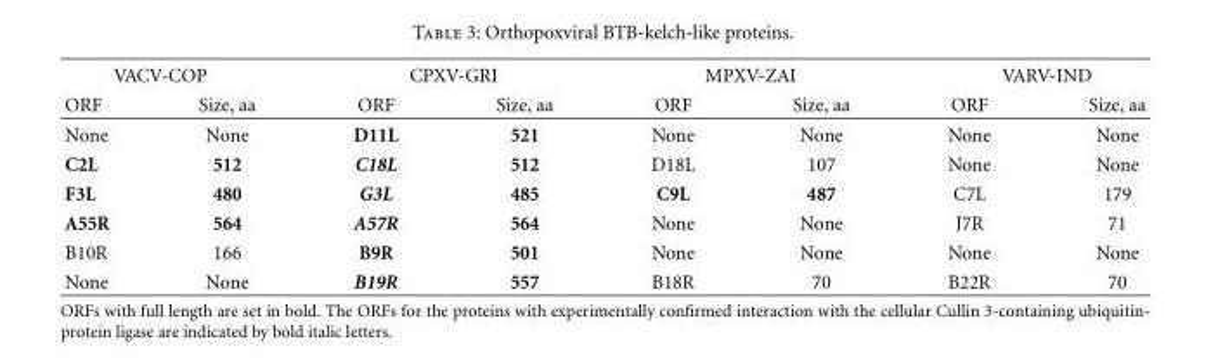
<table><thead><tr><td colspan="2">VACV-COP</td><td colspan="2">CPXV-GRI</td><td colspan="2">MPXV-ZAI</td><td colspan="2">VARV-IND</td></tr><tr><td>ORF</td><td>Size, aa</td><td>ORF</td><td>Size, aa</td><td>ORF</td><td>Size, aa</td><td>ORF</td><td>Size, aa</td></tr></thead><tbody><tr><td>None</td><td>None</td><td>D11L</td><td>521</td><td>None</td><td>None</td><td>None</td><td>None</td></tr><tr><td>C2L</td><td>512</td><td>C18L</td><td>512</td><td>D18L</td><td>107</td><td>None</td><td>None</td></tr><tr><td>F3L</td><td>480</td><td>G3L</td><td>485</td><td>C9L</td><td>487</td><td>C7L</td><td>179</td></tr><tr><td>A55R</td><td>564</td><td>A57R</td><td>564</td><td>None</td><td>None</td><td>J7R</td><td>71</td></tr><tr><td>B10R</td><td>166</td><td>B9R</td><td>501</td><td>None</td><td>None</td><td>None</td><td>None</td></tr><tr><td>None</td><td>None</td><td>B19R</td><td>557</td><td>B18R</td><td>70</td><td>B22R</td><td>70</td></tr></tbody></table>